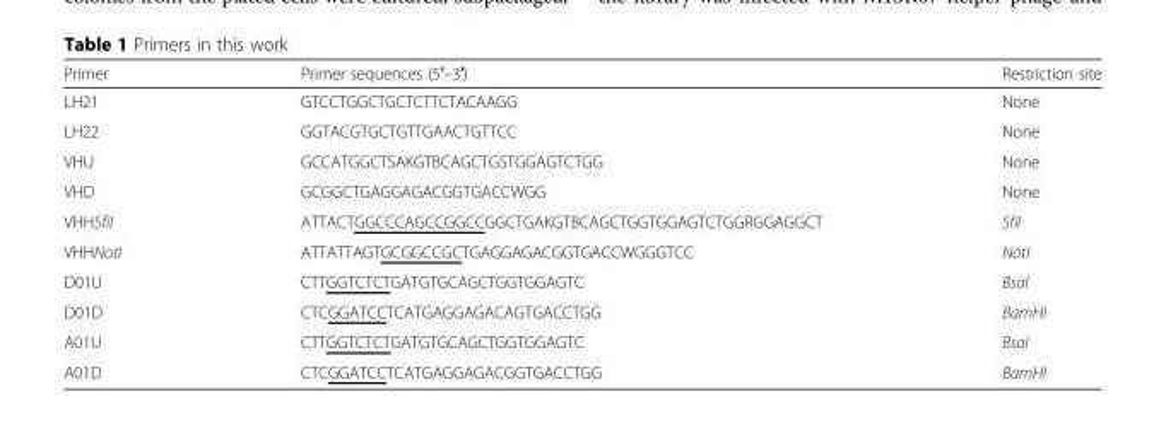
<table><thead><tr><td>Primer</td><td>Primer sequences (5′–3′)</td><td>Restriction site</td></tr></thead><tbody><tr><td>LH21</td><td>GTCCTGGCTGCTCTTCTACAAGG</td><td>None</td></tr><tr><td>LH22</td><td>GGTACGTGCTGTTGAACTGTTCC</td><td>None</td></tr><tr><td>VHU</td><td>GCCATGGCTSAKGTBCAGCTGSTGGAGTCTGG</td><td>None</td></tr><tr><td>VHD</td><td>GCGGCTGAGGAGACGGTGACCWGG</td><td>None</td></tr><tr><td>VHHSfiI</td><td>ATTACTGGCCCAGCCGGCCGGCTGAKGTBCAGCTGGTGGAGTCTGGRGGAGGCT</td><td>SfiI</td></tr><tr><td>VHHNotI</td><td>ATTATTAGTGCGGCCGCTGAGGAGACGGTGACCWGGGTCC</td><td>NotI</td></tr><tr><td>D01U</td><td>CTTGGTCTCTGATGTGCAGCTGGTGGAGTC</td><td>BsaI</td></tr><tr><td>D01D</td><td>CTCGGATCCTCATGAGGAGACAGTGACCTGG</td><td>BamHI</td></tr><tr><td>A01U</td><td>CTTGGTCTCTGATGTGCAGCTGGTGGAGTC</td><td>BsaI</td></tr><tr><td>A01D</td><td>CTCGGATCCTCATGAGGAGACGGTGACCTGG</td><td>BamHI</td></tr></tbody></table>